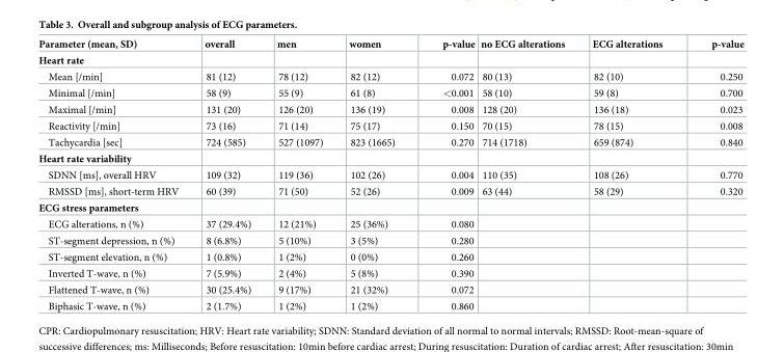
<table><thead><tr><td>Parameter (mean, SD)</td><td>overall</td><td>men</td><td>women</td><td>p-value</td><td>no ECG alterations</td><td>ECG alterations</td><td>p-value</td></tr></thead><tbody><tr><td colspan="8">Heart rate</td></tr><tr><td>Mean [/min]</td><td>81 (12)</td><td>78 (12)</td><td>82 (12)</td><td>0.072</td><td>80 (13)</td><td>82 (10)</td><td>0.250</td></tr><tr><td>Minimal [/min]</td><td>58 (9)</td><td>55 (9)</td><td>61 (8)</td><td>&lt;0.001</td><td>58 (10)</td><td>59 (8)</td><td>0.700</td></tr><tr><td>Maximal [/min]</td><td>131 (20)</td><td>126 (20)</td><td>136 (19)</td><td>0.008</td><td>128 (20)</td><td>136 (18)</td><td>0.023</td></tr><tr><td>Reactivity [/min]</td><td>73 (16)</td><td>71 (14)</td><td>75 (17)</td><td>0.150</td><td>70 (15)</td><td>78 (15)</td><td>0.008</td></tr><tr><td>Tachycardia [sec]</td><td>724 (585)</td><td>527 (1097)</td><td>823 (1665)</td><td>0.270</td><td>714 (1718)</td><td>659 (874)</td><td>0.840</td></tr><tr><td colspan="8">Heart rate variability</td></tr><tr><td>SDNN [ms], overall HRV</td><td>109 (32)</td><td>119 (36)</td><td>102 (26)</td><td>0.004</td><td>110 (35)</td><td>108 (26)</td><td>0.770</td></tr><tr><td>RMSSD [ms], short-term HRV</td><td>60 (39)</td><td>71 (50)</td><td>52 (26)</td><td>0.009</td><td>63 (44)</td><td>58 (29)</td><td>0.320</td></tr><tr><td colspan="8">ECG stress parameters</td></tr><tr><td>ECG alterations, n (%)</td><td>37 (29.4%)</td><td>12 (21%)</td><td>25 (36%)</td><td>0.080</td><td></td><td></td><td></td></tr><tr><td>ST-segment depression, n (%)</td><td>8 (6.8%)</td><td>5 (10%)</td><td>3 (5%)</td><td>0.280</td><td></td><td></td><td></td></tr><tr><td>ST-segment elevation, n (%)</td><td>1 (0.8%)</td><td>1 (2%)</td><td>0 (0%)</td><td>0.260</td><td></td><td></td><td></td></tr><tr><td>Inverted T-wave, n (%)</td><td>7 (5.9%)</td><td>2 (4%)</td><td>5 (8%)</td><td>0.390</td><td></td><td></td><td></td></tr><tr><td>Flattened T-wave, n (%)</td><td>30 (25.4%)</td><td>9 (17%)</td><td>21 (32%)</td><td>0.072</td><td></td><td></td><td></td></tr><tr><td>Biphasic T-wave, n (%)</td><td>2 (1.7%)</td><td>1 (2%)</td><td>1 (2%)</td><td>0.860</td><td></td><td></td><td></td></tr></tbody></table>